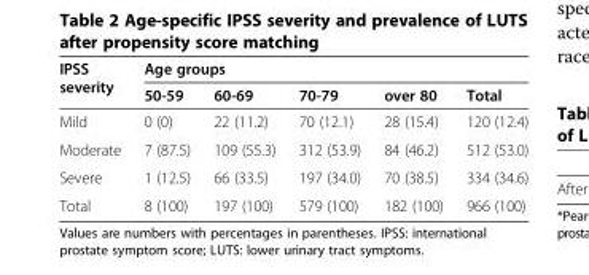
<table><thead><tr><td rowspan="2">IPSS severity</td><td colspan="5">Age groups</td></tr><tr><td>50-59</td><td>60-69</td><td>70-79</td><td>over 80</td><td>Total</td></tr></thead><tbody><tr><td>Mild</td><td>0 (0)</td><td>22 (11.2)</td><td>70 (12.1)</td><td>28 (15.4)</td><td>120 (12.4)</td></tr><tr><td>Moderate</td><td>7 (87.5)</td><td>109 (55.3)</td><td>312 (53.9)</td><td>84 (46.2)</td><td>512 (53.0)</td></tr><tr><td>Severe</td><td>1 (12.5)</td><td>66 (33.5)</td><td>197 (34.0)</td><td>70 (38.5)</td><td>334 (34.6)</td></tr><tr><td>Total</td><td>8 (100)</td><td>197 (100)</td><td>579 (100)</td><td>182 (100)</td><td>966 (100)</td></tr></tbody></table>